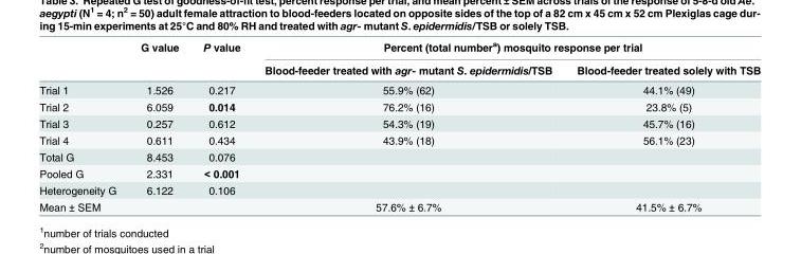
<table><thead><tr><td rowspan="2"></td><td rowspan="2">G value</td><td rowspan="2">P value</td><td colspan="2">Percent (total number<sup>a</sup>) mosquito response per trial</td></tr><tr><td>Blood-feeder treated with agr- mutant S. epidermidis/TSB</td><td>Blood-feeder treated solely with TSB</td></tr></thead><tbody><tr><td>Trial 1</td><td>1.526</td><td>0.217</td><td>55.9% (62)</td><td>44.1% (49)</td></tr><tr><td>Trial 2</td><td>6.059</td><td>0.014</td><td>76.2% (16)</td><td>23.8% (5)</td></tr><tr><td>Trial 3</td><td>0.257</td><td>0.612</td><td>54.3% (19)</td><td>45.7% (16)</td></tr><tr><td>Trial 4</td><td>0.611</td><td>0.434</td><td>43.9% (18)</td><td>56.1% (23)</td></tr><tr><td>Total G</td><td>8.453</td><td>0.076</td><td></td><td></td></tr><tr><td>Pooled G</td><td>2.331</td><td>&lt; 0.001</td><td></td><td></td></tr><tr><td>Heterogeneity G</td><td>6.122</td><td>0.106</td><td></td><td></td></tr><tr><td>Mean ± SEM</td><td></td><td></td><td>57.6% ± 6.7%</td><td>41.5% ± 6.7%</td></tr></tbody></table>